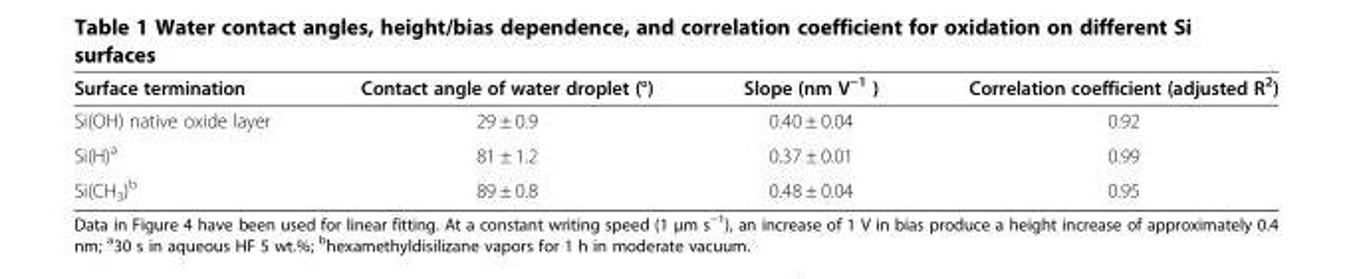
<table><thead><tr><td>Surface termination</td><td>Contact angle of water droplet (°)</td><td>Slope (nm V<sup>−1</sup> )</td><td>Correlation coefficient (adjusted R<sup>2</sup>)</td></tr></thead><tbody><tr><td>Si(OH) native oxide layer</td><td>29 ± 0.9</td><td>0.40 ± 0.04</td><td>0.92</td></tr><tr><td>Si(H)<sup>a</sup></td><td>81 ± 1.2</td><td>0.37 ± 0.01</td><td>0.99</td></tr><tr><td>Si(CH<sub>3</sub>)<sup>b</sup></td><td>89 ± 0.8</td><td>0.48 ± 0.04</td><td>0.95</td></tr></tbody></table>